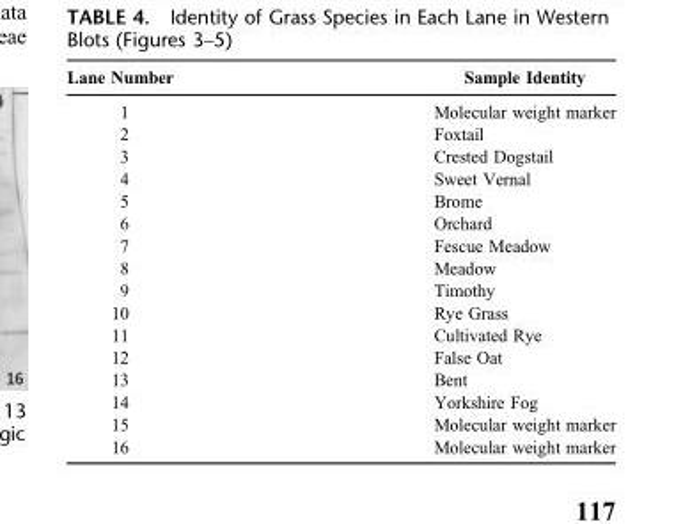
<table><thead><tr><td>Lane Number</td><td>Sample Identity</td></tr></thead><tbody><tr><td>1</td><td>Molecular weight marker</td></tr><tr><td>2</td><td>Foxtail</td></tr><tr><td>3</td><td>Crested Dogstail</td></tr><tr><td>4</td><td>Sweet Vernal</td></tr><tr><td>5</td><td>Brome</td></tr><tr><td>6</td><td>Orchard</td></tr><tr><td>7</td><td>Fescue Meadow</td></tr><tr><td>8</td><td>Meadow</td></tr><tr><td>9</td><td>Timothy</td></tr><tr><td>10</td><td>Rye Grass</td></tr><tr><td>11</td><td>Cultivated Rye</td></tr><tr><td>12</td><td>False Oat</td></tr><tr><td>13</td><td>Bent</td></tr><tr><td>14</td><td>Yorkshire Fog</td></tr><tr><td>15</td><td>Molecular weight marker</td></tr><tr><td>16</td><td>Molecular weight marker</td></tr></tbody></table>